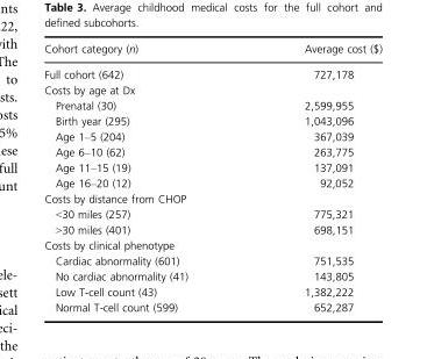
<table><thead><tr><td>Cohort category (n)</td><td>Average cost ($)</td></tr></thead><tbody><tr><td>Full cohort (642)</td><td>727,178</td></tr><tr><td colspan="2">Costs by age at Dx</td></tr><tr><td>Prenatal (30)</td><td>2,599,955</td></tr><tr><td>Birth year (295)</td><td>1,043,096</td></tr><tr><td>Age 1–5 (204)</td><td>367,039</td></tr><tr><td>Age 6–10 (62)</td><td>263,775</td></tr><tr><td>Age 11–15 (19)</td><td>137,091</td></tr><tr><td>Age 16–20 (12)</td><td>92,052</td></tr><tr><td colspan="2">Costs by distance from CHOP</td></tr><tr><td>&lt;30 miles (257)</td><td>775,321</td></tr><tr><td>&gt;30 miles (401)</td><td>698,151</td></tr><tr><td colspan="2">Costs by clinical phenotype</td></tr><tr><td>Cardiac abnormality (601)</td><td>751,535</td></tr><tr><td>No cardiac abnormality (41)</td><td>143,805</td></tr><tr><td>Low T-cell count (43)</td><td>1,382,222</td></tr><tr><td>Normal T-cell count (599)</td><td>652,287</td></tr></tbody></table>